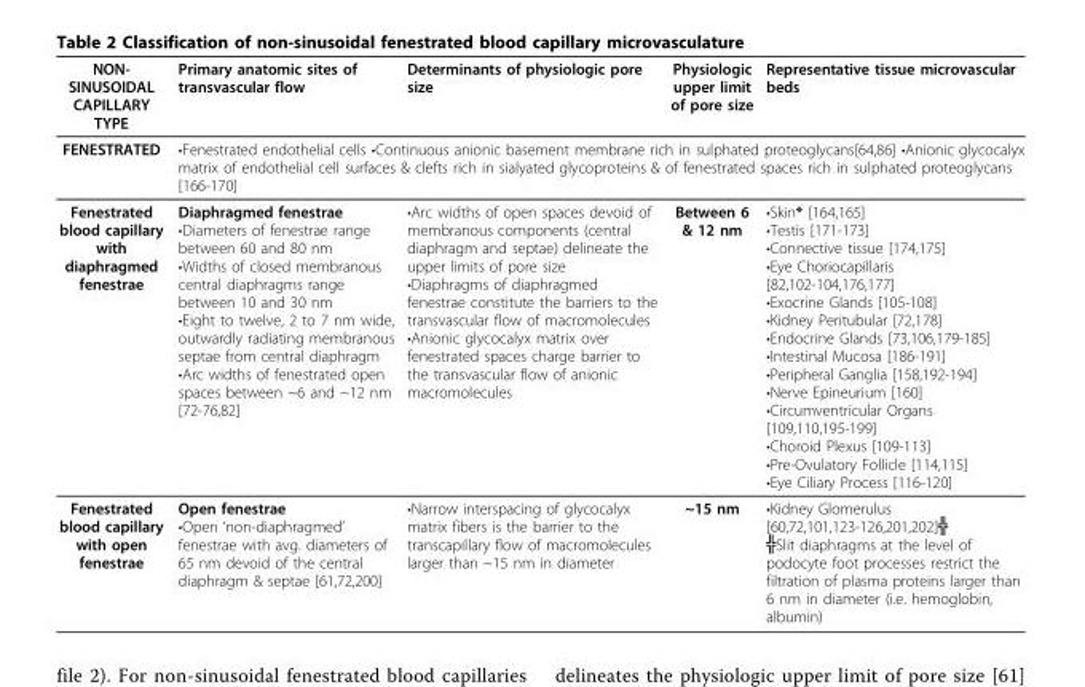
<table><thead><tr><td>NON- SINUSOIDAL CAPILLARY TYPE</td><td>Primary anatomic sites of transvascular flow</td><td>Determinants of physiologic pore size</td><td>Physiologic upper limit of pore size</td><td>Representative tissue microvascular beds</td></tr></thead><tbody><tr><td>FENESTRATED</td><td colspan="4">•Fenestrated endothelial cells •Continuous anionic basement membrane rich in sulphated proteoglycans[64,86] •Anionic glycocalyx matrix of endothelial cell surfaces &amp; clefts rich in sialyated glycoproteins &amp; of fenestrated spaces rich in sulphated proteoglycans [166-170]</td></tr><tr><td>Fenestrated blood capillary with diaphragmed fenestrae</td><td>Diaphragmed fenestrae •Diameters of fenestrae range between 60 and 80 nm •Widths of closed membranous central diaphragms range between 10 and 30 nm •Eight to twelve, 2 to 7 nm wide, outwardly radiating membranous septae from central diaphragm •Arc widths of fenestrated open spaces between ~6 and ~12 nm [72-76,82]</td><td>•Arc widths of open spaces devoid of membranous components (central diaphragm and septae) delineate the upper limits of pore size •Diaphragms of diaphragmed fenestrae constitute the barriers to the transvascular flow of macromolecules •Anionic glycocalyx matrix over fenestrated spaces charge barrier to the transvascular flow of anionic macromolecules</td><td>Between 6 &amp; 12 nm</td><td>•Skin* [164,165] •Testis [171-173] •Connective tissue [174,175] •Eye Choriocapillaris [82,102-104,176,177] •Exocrine Glands [105-108] •Kidney Peritubular [72,178] •Endocrine Glands [73,106,179-185] •Intestinal Mucosa [186-191] •Peripheral Ganglia [158,192-194] •Nerve Epineurium [160] •Circumventricular Organs [109,110,195-199] •Choroid Plexus [109-113] •Pre-Ovulatory Follicle [114,115] •Eye Ciliary Process [116-120]</td></tr><tr><td>Fenestrated blood capillary with open fenestrae</td><td>Open fenestrae •Open ‘non-diaphragmed’ fenestrae with avg. diameters of 65 nm devoid of the central diaphragm &amp; septae [61,72,200]</td><td>•Narrow interspacing of glycocalyx matrix fibers is the barrier to the transcapillary flow of macromolecules larger than ~15 nm in diameter</td><td>~15 nm</td><td>•Kidney Glomerulus [60,72,101,123-126,201,202]╬ ╬Slit diaphragms at the level of podocyte foot processes restrict the filtration of plasma proteins larger than 6 nm in diameter (i.e. hemoglobin, albumin)</td></tr></tbody></table>